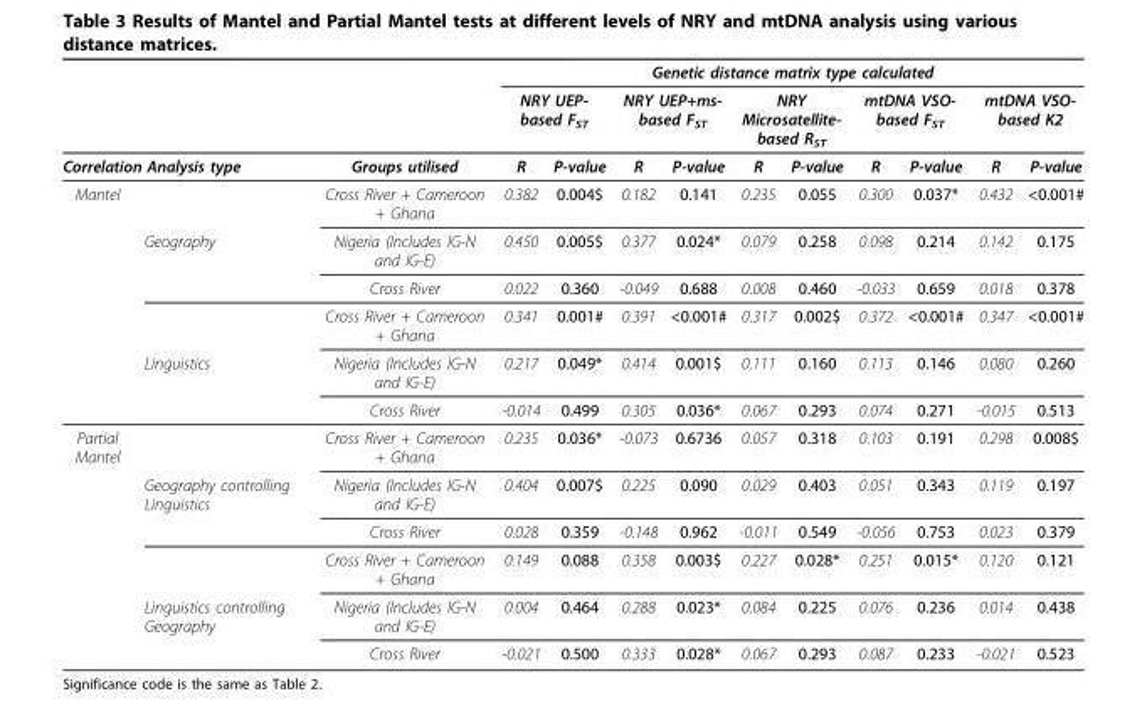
<table><thead><tr><td rowspan="2"></td><td rowspan="2"></td><td rowspan="3">Groups utilised</td><td colspan="10">Genetic distance matrix type calculated</td></tr><tr><td colspan="2">NRY UEP- based F<sub>ST</sub></td><td colspan="2">NRY UEP+ms- based F<sub>ST</sub></td><td colspan="2">NRY Microsatellite- based R<sub>ST</sub></td><td colspan="2">mtDNA VSO- based F<sub>ST</sub></td><td colspan="2">mtDNA VSO- based K2</td></tr><tr><td colspan="2">Correlation Analysis type</td><td>R</td><td>P-value</td><td>R</td><td>P-value</td><td>R</td><td>P-value</td><td>R</td><td>P-value</td><td>R</td><td>P-value</td></tr></thead><tbody><tr><td rowspan="6">Mantel</td><td></td><td>Cross River + Cameroon + Ghana</td><td>0.382</td><td>0.004$</td><td>0.182</td><td>0.141</td><td>0.235</td><td>0.055</td><td>0.300</td><td>0.037*</td><td>0.432</td><td>&lt;0.001#</td></tr><tr><td>Geography</td><td>Nigeria (Includes IG-N and IG-E)</td><td>0.450</td><td>0.005$</td><td>0.377</td><td>0.024*</td><td>0.079</td><td>0.258</td><td>0.098</td><td>0.214</td><td>0.142</td><td>0.175</td></tr><tr><td></td><td>Cross River</td><td>0.022</td><td>0.360</td><td>-0.049</td><td>0.688</td><td>0.008</td><td>0.460</td><td>-0.033</td><td>0.659</td><td>0.018</td><td>0.378</td></tr><tr><td></td><td>Cross River + Cameroon + Ghana</td><td>0.341</td><td>0.001#</td><td>0.391</td><td>&lt;0.001#</td><td>0.317</td><td>0.002$</td><td>0.372</td><td>&lt;0.001#</td><td>0.347</td><td>&lt;0.001#</td></tr><tr><td>Linguistics</td><td>Nigeria (Includes IG-N and IG-E)</td><td>0.217</td><td>0.049*</td><td>0.414</td><td>0.001$</td><td>0.111</td><td>0.160</td><td>0.113</td><td>0.146</td><td>0.080</td><td>0.260</td></tr><tr><td></td><td>Cross River</td><td>-0.014</td><td>0.499</td><td>0.305</td><td>0.036*</td><td>0.067</td><td>0.293</td><td>0.074</td><td>0.271</td><td>-0.015</td><td>0.513</td></tr><tr><td rowspan="6">Partial Mantel</td><td></td><td>Cross River + Cameroon + Ghana</td><td>0.235</td><td>0.036*</td><td>-0.073</td><td>0.6736</td><td>0.057</td><td>0.318</td><td>0.103</td><td>0.191</td><td>0.298</td><td>0.008$</td></tr><tr><td>Geography controlling Linguistics</td><td>Nigeria (Includes IG-N and IG-E)</td><td>0.404</td><td>0.007$</td><td>0.225</td><td>0.090</td><td>0.029</td><td>0.403</td><td>0.051</td><td>0.343</td><td>0.119</td><td>0.197</td></tr><tr><td></td><td>Cross River</td><td>0.028</td><td>0.359</td><td>-0.148</td><td>0.962</td><td>-0.011</td><td>0.549</td><td>-0.056</td><td>0.753</td><td>0.023</td><td>0.379</td></tr><tr><td></td><td>Cross River + Cameroon + Ghana</td><td>0.149</td><td>0.088</td><td>0.358</td><td>0.003$</td><td>0.227</td><td>0.028*</td><td>0.251</td><td>0.015*</td><td>0.120</td><td>0.121</td></tr><tr><td>Linguistics controlling Geography</td><td>Nigeria (Includes IG-N and IG-E)</td><td>0.004</td><td>0.464</td><td>0.288</td><td>0.023*</td><td>0.084</td><td>0.225</td><td>0.076</td><td>0.236</td><td>0.014</td><td>0.438</td></tr><tr><td></td><td>Cross River</td><td>-0.021</td><td>0.500</td><td>0.333</td><td>0.028*</td><td>0.067</td><td>0.293</td><td>0.087</td><td>0.233</td><td>-0.021</td><td>0.523</td></tr></tbody></table>